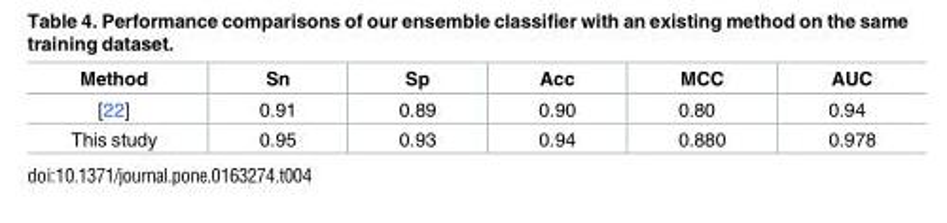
<table><thead><tr><td>Method</td><td>Sn</td><td>Sp</td><td>Acc</td><td>MCC</td><td>AUC</td></tr></thead><tbody><tr><td>[22]</td><td>0.91</td><td>0.89</td><td>0.90</td><td>0.80</td><td>0.94</td></tr><tr><td>This study</td><td>0.95</td><td>0.93</td><td>0.94</td><td>0.880</td><td>0.978</td></tr></tbody></table>